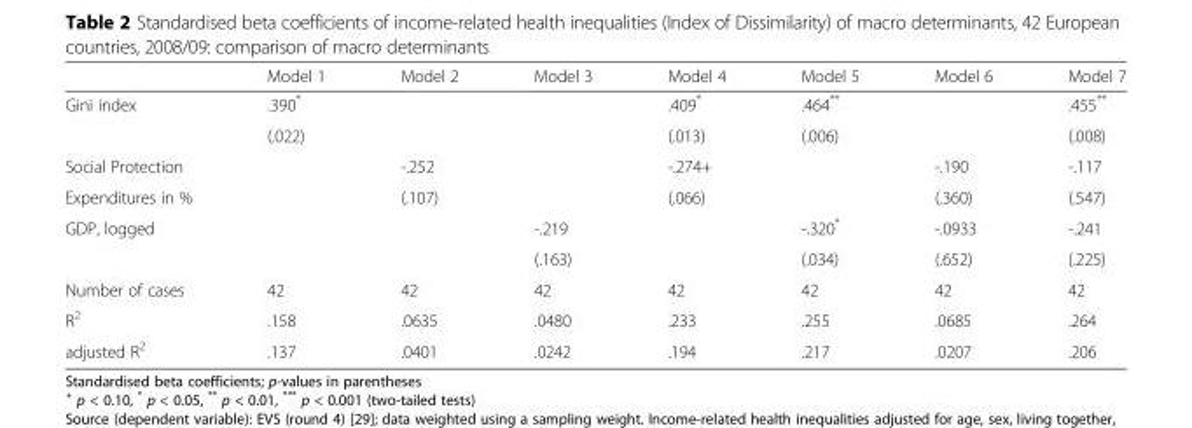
<table><thead><tr><td></td><td>Model 1</td><td>Model 2</td><td>Model 3</td><td>Model 4</td><td>Model 5</td><td>Model 6</td><td>Model 7</td></tr></thead><tbody><tr><td rowspan="2">Gini index</td><td>.390*</td><td></td><td></td><td>.409*</td><td>.464**</td><td></td><td>.455**</td></tr><tr><td>(.022)</td><td></td><td></td><td>(.013)</td><td>(.006)</td><td></td><td>(.008)</td></tr><tr><td>Social Protection</td><td></td><td>-.252</td><td></td><td>-.274+</td><td></td><td>-.190</td><td>-.117</td></tr><tr><td>Expenditures in %</td><td></td><td>(.107)</td><td></td><td>(.066)</td><td></td><td>(.360)</td><td>(.547)</td></tr><tr><td rowspan="2">GDP, logged</td><td></td><td></td><td>-.219</td><td></td><td>-.320*</td><td>-.0933</td><td>-.241</td></tr><tr><td></td><td></td><td>(.163)</td><td></td><td>(.034)</td><td>(.652)</td><td>(.225)</td></tr><tr><td>Number of cases</td><td>42</td><td>42</td><td>42</td><td>42</td><td>42</td><td>42</td><td>42</td></tr><tr><td>R<sup>2</sup></td><td>.158</td><td>.0635</td><td>.0480</td><td>.233</td><td>.255</td><td>.0685</td><td>.264</td></tr><tr><td>adjusted R<sup>2</sup></td><td>.137</td><td>.0401</td><td>.0242</td><td>.194</td><td>.217</td><td>.0207</td><td>.206</td></tr></tbody></table>